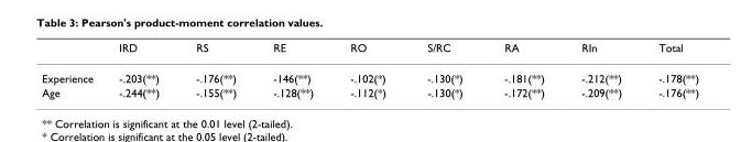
<table><thead><tr><td></td><td>IRD</td><td>RS</td><td>RE</td><td>RO</td><td>S/RC</td><td>RA</td><td>RIn</td><td>Total</td></tr></thead><tbody><tr><td>Experience</td><td>-.203(**)</td><td>-.176(**)</td><td>-146(**)</td><td>-.102(*)</td><td>-.130(*)</td><td>-.181(**)</td><td>-.212(**)</td><td>-.178(**)</td></tr><tr><td>Age</td><td>-.244(**)</td><td>-.155(**)</td><td>-.128(**)</td><td>-.112(*)</td><td>-.130(*)</td><td>-.172(**)</td><td>-.209(**)</td><td>-.176(**)</td></tr></tbody></table>